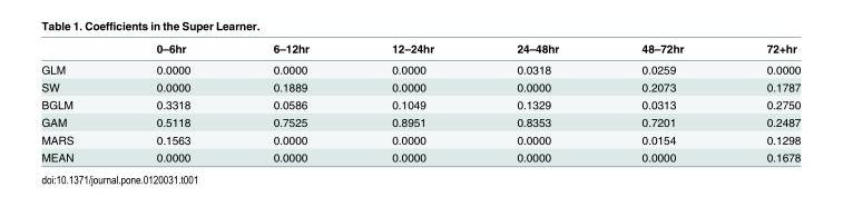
<table><thead><tr><td></td><td>0–6hr</td><td>6–12hr</td><td>12–24hr</td><td>24–48hr</td><td>48–72hr</td><td>72+hr</td></tr></thead><tbody><tr><td>GLM</td><td>0.0000</td><td>0.0000</td><td>0.0000</td><td>0.0318</td><td>0.0259</td><td>0.0000</td></tr><tr><td>SW</td><td>0.0000</td><td>0.1889</td><td>0.0000</td><td>0.0000</td><td>0.2073</td><td>0.1787</td></tr><tr><td>BGLM</td><td>0.3318</td><td>0.0586</td><td>0.1049</td><td>0.1329</td><td>0.0313</td><td>0.2750</td></tr><tr><td>GAM</td><td>0.5118</td><td>0.7525</td><td>0.8951</td><td>0.8353</td><td>0.7201</td><td>0.2487</td></tr><tr><td>MARS</td><td>0.1563</td><td>0.0000</td><td>0.0000</td><td>0.0000</td><td>0.0154</td><td>0.1298</td></tr><tr><td>MEAN</td><td>0.0000</td><td>0.0000</td><td>0.0000</td><td>0.0000</td><td>0.0000</td><td>0.1678</td></tr></tbody></table>